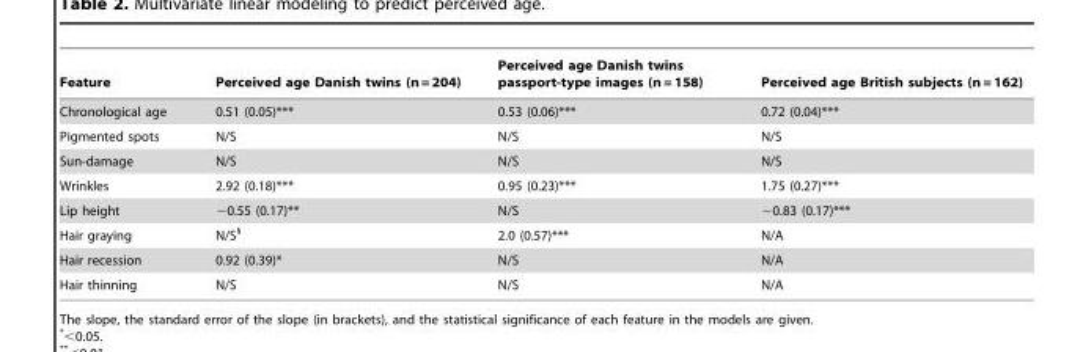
<table><thead><tr><td>Feature</td><td>Perceived age Danish twins (n = 204)</td><td>Perceived age Danish twins passport-type images (n = 158)</td><td>Perceived age British subjects (n = 162)</td></tr></thead><tbody><tr><td>Chronological age</td><td>0.51 (0.05)***</td><td>0.53 (0.06)***</td><td>0.72 (0.04)***</td></tr><tr><td>Pigmented spots</td><td>N/S</td><td>N/S</td><td>N/S</td></tr><tr><td>Sun-damage</td><td>N/S</td><td>N/S</td><td>N/S</td></tr><tr><td>Wrinkles</td><td>2.92 (0.18)***</td><td>0.95 (0.23)***</td><td>1.75 (0.27)***</td></tr><tr><td>Lip height</td><td>−0.55 (0.17)**</td><td>N/S</td><td>−0.83 (0.17)***</td></tr><tr><td>Hair graying</td><td>N/S§</td><td>2.0 (0.57)***</td><td>N/A</td></tr><tr><td>Hair recession</td><td>0.92 (0.39)*</td><td>N/S</td><td>N/A</td></tr><tr><td>Hair thinning</td><td>N/S</td><td>N/S</td><td>N/A</td></tr></tbody></table>